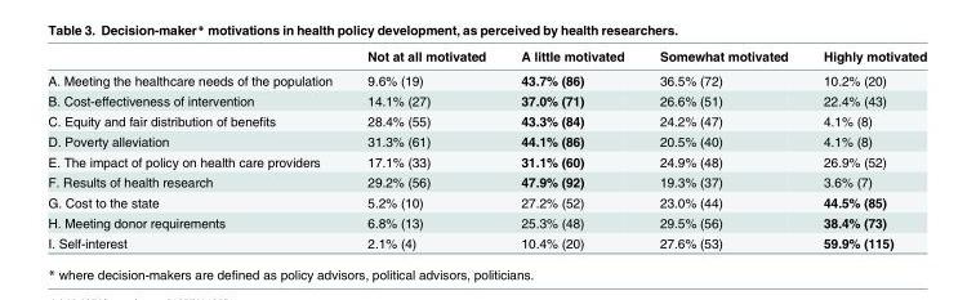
<table><thead><tr><td></td><td>Not at all motivated</td><td>A little motivated</td><td>Somewhat motivated</td><td>Highly motivated</td></tr></thead><tbody><tr><td>A. Meeting the healthcare needs of the population</td><td>9.6% (19)</td><td>43.7% (86)</td><td>36.5% (72)</td><td>10.2% (20)</td></tr><tr><td>B. Cost-effectiveness of intervention</td><td>14.1% (27)</td><td>37.0% (71)</td><td>26.6% (51)</td><td>22.4% (43)</td></tr><tr><td>C. Equity and fair distribution of benefits</td><td>28.4% (55)</td><td>43.3% (84)</td><td>24.2% (47)</td><td>4.1% (8)</td></tr><tr><td>D. Poverty alleviation</td><td>31.3% (61)</td><td>44.1% (86)</td><td>20.5% (40)</td><td>4.1% (8)</td></tr><tr><td>E. The impact of policy on health care providers</td><td>17.1% (33)</td><td>31.1% (60)</td><td>24.9% (48)</td><td>26.9% (52)</td></tr><tr><td>F. Results of health research</td><td>29.2% (56)</td><td>47.9% (92)</td><td>19.3% (37)</td><td>3.6% (7)</td></tr><tr><td>G. Cost to the state</td><td>5.2% (10)</td><td>27.2% (52)</td><td>23.0% (44)</td><td>44.5% (85)</td></tr><tr><td>H. Meeting donor requirements</td><td>6.8% (13)</td><td>25.3% (48)</td><td>29.5% (56)</td><td>38.4% (73)</td></tr><tr><td>I. Self-interest</td><td>2.1% (4)</td><td>10.4% (20)</td><td>27.6% (53)</td><td>59.9% (115)</td></tr></tbody></table>